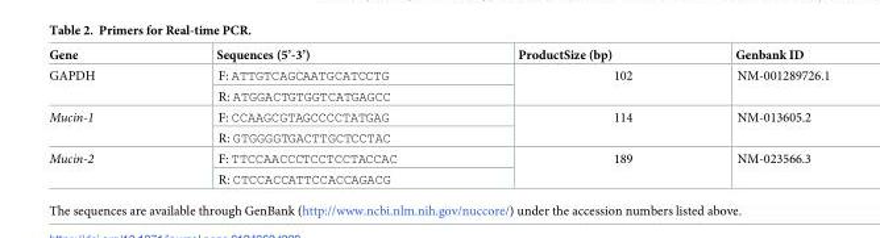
<table><thead><tr><td>Gene</td><td>Sequences (5’-3’)</td><td>ProductSize (bp)</td><td>Genbank ID</td></tr></thead><tbody><tr><td rowspan="2">GAPDH</td><td>F: ATTGTCAGCAATGCATCCTG</td><td rowspan="2">102</td><td rowspan="2">NM-001289726.1</td></tr><tr><td>R: ATGGACTGTGGTCATGAGCC</td></tr><tr><td rowspan="2">Mucin-1</td><td>F: CCAAGCGTAGCCCCTATGAG</td><td rowspan="2">114</td><td rowspan="2">NM-013605.2</td></tr><tr><td>R: GTGGGGTGACTTGCTCCTAC</td></tr><tr><td rowspan="2">Mucin-2</td><td>F: TTCCAACCCTCCTCCTACCAC</td><td rowspan="2">189</td><td rowspan="2">NM-023566.3</td></tr><tr><td>R: CTCCACCATTCCACCAGACG</td></tr></tbody></table>